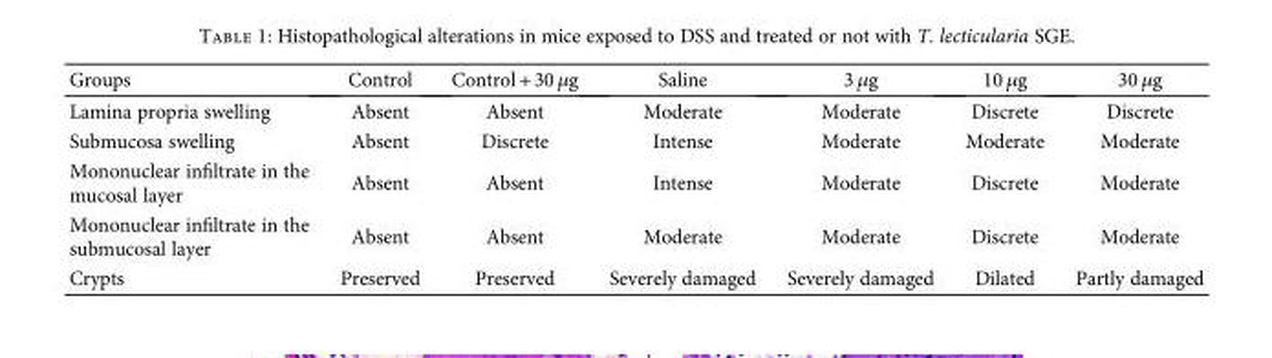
<table><thead><tr><td>Groups</td><td>Control</td><td>Control + 30 μg</td><td>Saline</td><td>3 μg</td><td>10 μg</td><td>30 μg</td></tr></thead><tbody><tr><td>Lamina propria swelling</td><td>Absent</td><td>Absent</td><td>Moderate</td><td>Moderate</td><td>Discrete</td><td>Discrete</td></tr><tr><td>Submucosa swelling</td><td>Absent</td><td>Discrete</td><td>Intense</td><td>Moderate</td><td>Moderate</td><td>Moderate</td></tr><tr><td>Mononuclear infiltrate in the mucosal layer</td><td>Absent</td><td>Absent</td><td>Intense</td><td>Moderate</td><td>Discrete</td><td>Moderate</td></tr><tr><td>Mononuclear infiltrate in the submucosal layer</td><td>Absent</td><td>Absent</td><td>Moderate</td><td>Moderate</td><td>Discrete</td><td>Moderate</td></tr><tr><td>Crypts</td><td>Preserved</td><td>Preserved</td><td>Severely damaged</td><td>Severely damaged</td><td>Dilated</td><td>Partly damaged</td></tr></tbody></table>